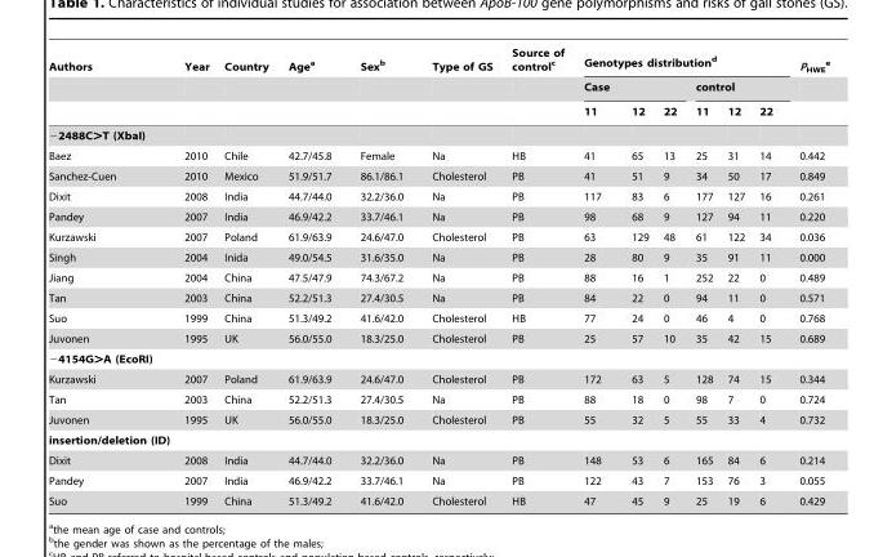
<table><thead><tr><td rowspan="3">Authors</td><td rowspan="3">Year</td><td rowspan="3">Country</td><td rowspan="3">Age<sup>a</sup></td><td rowspan="3">Sex<sup>b</sup></td><td rowspan="3">Type of GS</td><td rowspan="3">Source of control<sup>c</sup></td><td colspan="6">Genotypes distribution<sup>d</sup></td><td rowspan="3">PHWE</td></tr><tr><td colspan="3">Case</td><td colspan="3">control</td></tr><tr><td>11</td><td>12</td><td>22</td><td>11</td><td>12</td><td>22</td></tr></thead><tbody><tr><td colspan="14">−2488C&gt;T (XbaI)</td></tr><tr><td>Baez</td><td>2010</td><td>Chile</td><td>42.7/45.8</td><td>Female</td><td>Na</td><td>HB</td><td>41</td><td>65</td><td>13</td><td>25</td><td>31</td><td>14</td><td>0.442</td></tr><tr><td>Sanchez-Cuen</td><td>2010</td><td>Mexico</td><td>51.9/51.7</td><td>86.1/86.1</td><td>Cholesterol</td><td>PB</td><td>41</td><td>51</td><td>9</td><td>34</td><td>50</td><td>17</td><td>0.849</td></tr><tr><td>Dixit</td><td>2008</td><td>India</td><td>44.7/44.0</td><td>32.2/36.0</td><td>Na</td><td>PB</td><td>117</td><td>83</td><td>6</td><td>177</td><td>127</td><td>16</td><td>0.261</td></tr><tr><td>Pandey</td><td>2007</td><td>India</td><td>46.9/42.2</td><td>33.7/46.1</td><td>Na</td><td>PB</td><td>98</td><td>68</td><td>9</td><td>127</td><td>94</td><td>11</td><td>0.220</td></tr><tr><td>Kurzawski</td><td>2007</td><td>Poland</td><td>61.9/63.9</td><td>24.6/47.0</td><td>Cholesterol</td><td>PB</td><td>63</td><td>129</td><td>48</td><td>61</td><td>122</td><td>34</td><td>0.036</td></tr><tr><td>Singh</td><td>2004</td><td>Inida</td><td>49.0/54.5</td><td>31.6/35.0</td><td>Na</td><td>PB</td><td>28</td><td>80</td><td>9</td><td>35</td><td>91</td><td>11</td><td>0.000</td></tr><tr><td>Jiang</td><td>2004</td><td>China</td><td>47.5/47.9</td><td>74.3/67.2</td><td>Na</td><td>PB</td><td>88</td><td>16</td><td>1</td><td>252</td><td>22</td><td>0</td><td>0.489</td></tr><tr><td>Tan</td><td>2003</td><td>China</td><td>52.2/51.3</td><td>27.4/30.5</td><td>Na</td><td>PB</td><td>84</td><td>22</td><td>0</td><td>94</td><td>11</td><td>0</td><td>0.571</td></tr><tr><td>Suo</td><td>1999</td><td>China</td><td>51.3/49.2</td><td>41.6/42.0</td><td>Cholesterol</td><td>HB</td><td>77</td><td>24</td><td>0</td><td>46</td><td>4</td><td>0</td><td>0.768</td></tr><tr><td>Juvonen</td><td>1995</td><td>UK</td><td>56.0/55.0</td><td>18.3/25.0</td><td>Cholesterol</td><td>PB</td><td>25</td><td>57</td><td>10</td><td>35</td><td>42</td><td>15</td><td>0.689</td></tr><tr><td colspan="14">−4154G&gt;A (EcoRI)</td></tr><tr><td>Kurzawski</td><td>2007</td><td>Poland</td><td>61.9/63.9</td><td>24.6/47.0</td><td>Cholesterol</td><td>PB</td><td>172</td><td>63</td><td>5</td><td>128</td><td>74</td><td>15</td><td>0.344</td></tr><tr><td>Tan</td><td>2003</td><td>China</td><td>52.2/51.3</td><td>27.4/30.5</td><td>Na</td><td>PB</td><td>88</td><td>18</td><td>0</td><td>98</td><td>7</td><td>0</td><td>0.724</td></tr><tr><td>Juvonen</td><td>1995</td><td>UK</td><td>56.0/55.0</td><td>18.3/25.0</td><td>Cholesterol</td><td>PB</td><td>55</td><td>32</td><td>5</td><td>55</td><td>33</td><td>4</td><td>0.732</td></tr><tr><td colspan="14">insertion/deletion (ID)</td></tr><tr><td>Dixit</td><td>2008</td><td>India</td><td>44.7/44.0</td><td>32.2/36.0</td><td>Na</td><td>PB</td><td>148</td><td>53</td><td>6</td><td>165</td><td>84</td><td>6</td><td>0.214</td></tr><tr><td>Pandey</td><td>2007</td><td>India</td><td>46.9/42.2</td><td>33.7/46.1</td><td>Na</td><td>PB</td><td>122</td><td>43</td><td>7</td><td>153</td><td>76</td><td>3</td><td>0.055</td></tr><tr><td>Suo</td><td>1999</td><td>China</td><td>51.3/49.2</td><td>41.6/42.0</td><td>Cholesterol</td><td>HB</td><td>47</td><td>45</td><td>9</td><td>25</td><td>19</td><td>6</td><td>0.429</td></tr></tbody></table>